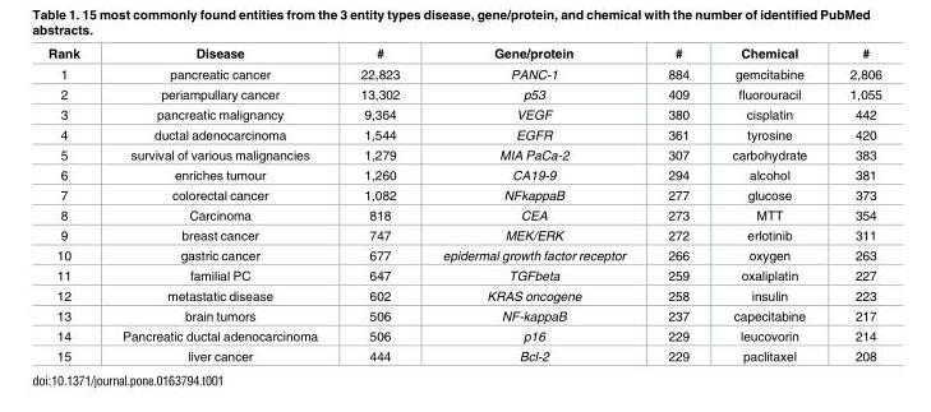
<table><thead><tr><td>Rank</td><td>Disease</td><td>#</td><td>Gene/protein</td><td>#</td><td>Chemical</td><td>#</td></tr></thead><tbody><tr><td>1</td><td>pancreatic cancer</td><td>22,823</td><td>PANC-1</td><td>884</td><td>gemcitabine</td><td>2,806</td></tr><tr><td>2</td><td>periampullary cancer</td><td>13,302</td><td>p53</td><td>409</td><td>fluorouracil</td><td>1,055</td></tr><tr><td>3</td><td>pancreatic malignancy</td><td>9,364</td><td>VEGF</td><td>380</td><td>cisplatin</td><td>442</td></tr><tr><td>4</td><td>ductal adenocarcinoma</td><td>1,544</td><td>EGFR</td><td>361</td><td>tyrosine</td><td>420</td></tr><tr><td>5</td><td>survival of various malignancies</td><td>1,279</td><td>MIA PaCa-2</td><td>307</td><td>carbohydrate</td><td>383</td></tr><tr><td>6</td><td>enriches tumour</td><td>1,260</td><td>CA19-9</td><td>294</td><td>alcohol</td><td>381</td></tr><tr><td>7</td><td>colorectal cancer</td><td>1,082</td><td>NFkappaB</td><td>277</td><td>glucose</td><td>373</td></tr><tr><td>8</td><td>Carcinoma</td><td>818</td><td>CEA</td><td>273</td><td>MTT</td><td>354</td></tr><tr><td>9</td><td>breast cancer</td><td>747</td><td>MEK/ERK</td><td>272</td><td>erlotinib</td><td>311</td></tr><tr><td>10</td><td>gastric cancer</td><td>677</td><td>epidermal growth factor receptor</td><td>266</td><td>oxygen</td><td>263</td></tr><tr><td>11</td><td>familial PC</td><td>647</td><td>TGFbeta</td><td>259</td><td>oxaliplatin</td><td>227</td></tr><tr><td>12</td><td>metastatic disease</td><td>602</td><td>KRAS oncogene</td><td>258</td><td>insulin</td><td>223</td></tr><tr><td>13</td><td>brain tumors</td><td>506</td><td>NF-kappaB</td><td>237</td><td>capecitabine</td><td>217</td></tr><tr><td>14</td><td>Pancreatic ductal adenocarcinoma</td><td>506</td><td>p16</td><td>229</td><td>leucovorin</td><td>214</td></tr><tr><td>15</td><td>liver cancer</td><td>444</td><td>Bcl-2</td><td>229</td><td>paclitaxel</td><td>208</td></tr></tbody></table>